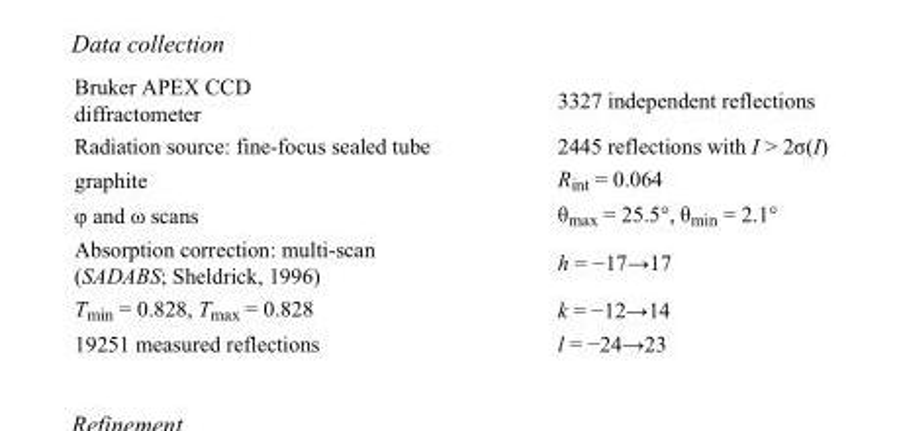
<table><tbody><tr><td>Bruker APEX CCD diffractometer</td><td>3327 independent reflections</td></tr><tr><td>Radiation source: fine-focus sealed tube</td><td>2445 reflections with I &gt; 2σ(I)</td></tr><tr><td>graphite</td><td>R<sub>int</sub> = 0.064</td></tr><tr><td>φ and ω scans</td><td>θ<sub>max</sub> = 25.5°, θ<sub>min</sub> = 2.1°</td></tr><tr><td>Absorption correction: multi-scan (SADABS; Sheldrick, 1996)</td><td>h = −17→17</td></tr><tr><td>T<sub>min</sub> = 0.828, T<sub>max</sub> = 0.828</td><td>k = −12→14</td></tr><tr><td>19251 measured reflections</td><td>l = −24→23</td></tr></tbody></table>